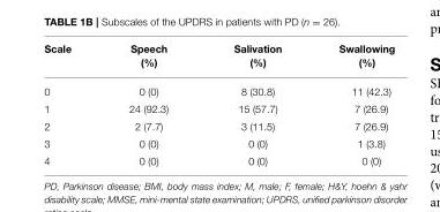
<table><thead><tr><td>Scale</td><td>Speech (%)</td><td>Salivation (%)</td><td>Swallowing (%)</td></tr></thead><tbody><tr><td>0</td><td>0 (0)</td><td>8 (30.8)</td><td>11 (42.3)</td></tr><tr><td>1</td><td>24 (92.3)</td><td>15 (57.7)</td><td>7 (26.9)</td></tr><tr><td>2</td><td>2 (7.7)</td><td>3 (11.5)</td><td>7 (26.9)</td></tr><tr><td>3</td><td>0 (0)</td><td>0 (0)</td><td>1 (3.8)</td></tr><tr><td>4</td><td>0 (0)</td><td>0 (0)</td><td>0 (0)</td></tr></tbody></table>